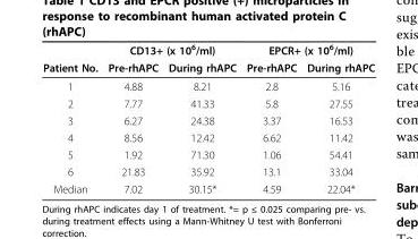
<table><thead><tr><td rowspan="2">Patient No.</td><td colspan="2">CD13+ (x 10<sup>6</sup>/ml)</td><td colspan="2">EPCR+ (x 10<sup>6</sup>/ml)</td></tr><tr><td>Pre-rhAPC</td><td>During rhAPC</td><td>Pre-rhAPC</td><td>During rhAPC</td></tr></thead><tbody><tr><td>1</td><td>4.88</td><td>8.21</td><td>2.8</td><td>5.16</td></tr><tr><td>2</td><td>7.77</td><td>41.33</td><td>5.8</td><td>27.55</td></tr><tr><td>3</td><td>6.27</td><td>24.38</td><td>3.37</td><td>16.53</td></tr><tr><td>4</td><td>8.56</td><td>12.42</td><td>6.62</td><td>11.42</td></tr><tr><td>5</td><td>1.92</td><td>71.30</td><td>1.06</td><td>54.41</td></tr><tr><td>6</td><td>21.83</td><td>35.92</td><td>13.1</td><td>33.04</td></tr><tr><td>Median</td><td>7.02</td><td>30.15*</td><td>4.59</td><td>22.04*</td></tr></tbody></table>